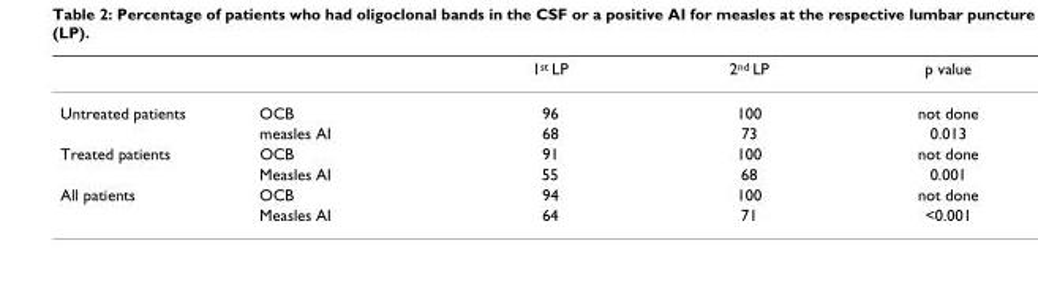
<table><thead><tr><td></td><td></td><td>1<sup>st</sup> LP</td><td>2<sup>nd</sup> LP</td><td>p value</td></tr></thead><tbody><tr><td rowspan="2">Untreated patients</td><td>OCB</td><td>96</td><td>100</td><td>not done</td></tr><tr><td>measles AI</td><td>68</td><td>73</td><td>0.013</td></tr><tr><td rowspan="2">Treated patients</td><td>OCB</td><td>91</td><td>100</td><td>not done</td></tr><tr><td>Measles AI</td><td>55</td><td>68</td><td>0.001</td></tr><tr><td rowspan="2">All patients</td><td>OCB</td><td>94</td><td>100</td><td>not done</td></tr><tr><td>Measles AI</td><td>64</td><td>71</td><td>&lt;0.001</td></tr></tbody></table>